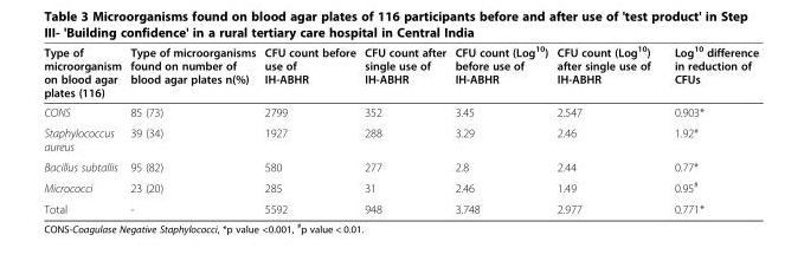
<table><thead><tr><td>Type of microorganism on blood agar plates (116)</td><td>Type of microorganisms found on number of blood agar plates n(%)</td><td>CFU count before use of IH-ABHR</td><td>CFU count after single use of IH-ABHR</td><td>CFU count (Log<sup>10</sup>) before use of IH-ABHR</td><td>CFU count (Log<sup>10</sup>) after single use of IH-ABHR</td><td>Log<sup>10</sup> difference in reduction of CFUs</td></tr></thead><tbody><tr><td>CONS</td><td>85 (73)</td><td>2799</td><td>352</td><td>3.45</td><td>2.547</td><td>0.903*</td></tr><tr><td>Staphylococcus aureus</td><td>39 (34)</td><td>1927</td><td>288</td><td>3.29</td><td>2.46</td><td>1.92*</td></tr><tr><td>Bacillus subtallis</td><td>95 (82)</td><td>580</td><td>277</td><td>2.8</td><td>2.44</td><td>0.77*</td></tr><tr><td>Micrococci</td><td>23 (20)</td><td>285</td><td>31</td><td>2.46</td><td>1.49</td><td>0.95<sup>#</sup></td></tr><tr><td>Total</td><td>-</td><td>5592</td><td>948</td><td>3.748</td><td>2.977</td><td>0.771*</td></tr></tbody></table>